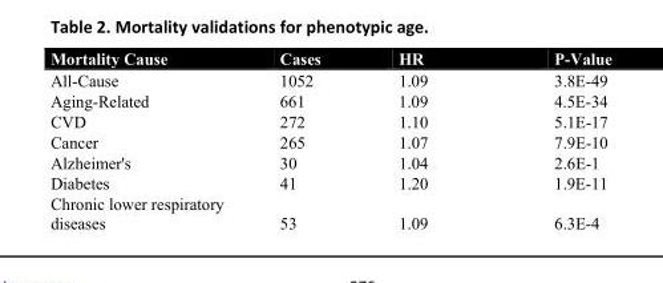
<table><tbody><tr><td>Mortality Cause</td><td>Cases</td><td>HR</td><td>P-Value</td></tr><tr><td>All-Cause</td><td>1052</td><td>1.09</td><td>3.8E-49</td></tr><tr><td>Aging-Related</td><td>661</td><td>1.09</td><td>4.5E-34</td></tr><tr><td>CVD</td><td>272</td><td>1.10</td><td>5.1E-17</td></tr><tr><td>Cancer</td><td>265</td><td>1.07</td><td>7.9E-10</td></tr><tr><td>Alzheimer&#x27;s</td><td>30</td><td>1.04</td><td>2.6E-1</td></tr><tr><td>Diabetes</td><td>41</td><td>1.20</td><td>1.9E-11</td></tr><tr><td>Chronic lower respiratory diseases</td><td>53</td><td>1.09</td><td>6.3E-4</td></tr></tbody></table>